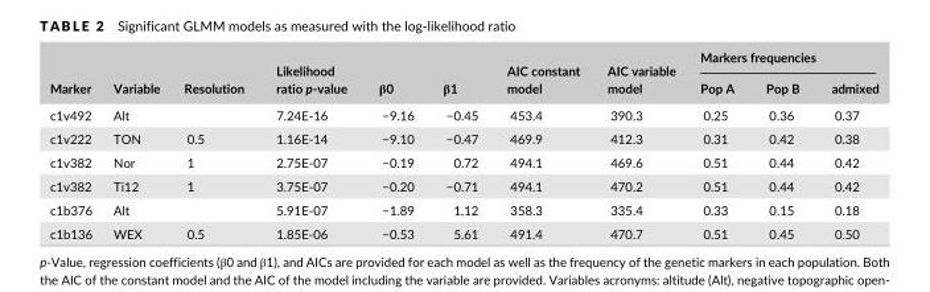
<table><thead><tr><td rowspan="2">Marker</td><td rowspan="2">Variable</td><td rowspan="2">Resolution</td><td rowspan="2">Likelihood ratio p- value</td><td rowspan="2">β0</td><td rowspan="2">β1</td><td rowspan="2">AIC constant model</td><td rowspan="2">AIC variable model</td><td colspan="3">Markers frequencies</td></tr><tr><td>Pop A</td><td>Pop B</td><td>admixed</td></tr></thead><tbody><tr><td>c1v492</td><td>Alt</td><td></td><td>7.24E- 16</td><td>−9.16</td><td>−0.45</td><td>453.4</td><td>390.3</td><td>0.25</td><td>0.36</td><td>0.37</td></tr><tr><td>c1v222</td><td>TON</td><td>0.5</td><td>1.16E- 14</td><td>−9.10</td><td>−0.47</td><td>469.9</td><td>412.3</td><td>0.31</td><td>0.42</td><td>0.38</td></tr><tr><td>c1v382</td><td>Nor</td><td>1</td><td>2.75E- 07</td><td>−0.19</td><td>0.72</td><td>494.1</td><td>469.6</td><td>0.51</td><td>0.44</td><td>0.42</td></tr><tr><td>c1v382</td><td>Ti12</td><td>1</td><td>3.75E- 07</td><td>−0.20</td><td>−0.71</td><td>494.1</td><td>470.2</td><td>0.51</td><td>0.44</td><td>0.42</td></tr><tr><td>c1b376</td><td>Alt</td><td></td><td>5.91E- 07</td><td>−1.89</td><td>1.12</td><td>358.3</td><td>335.4</td><td>0.33</td><td>0.15</td><td>0.18</td></tr><tr><td>c1b136</td><td>WEX</td><td>0.5</td><td>1.85E- 06</td><td>−0.53</td><td>5.61</td><td>491.4</td><td>470.7</td><td>0.51</td><td>0.45</td><td>0.50</td></tr></tbody></table>